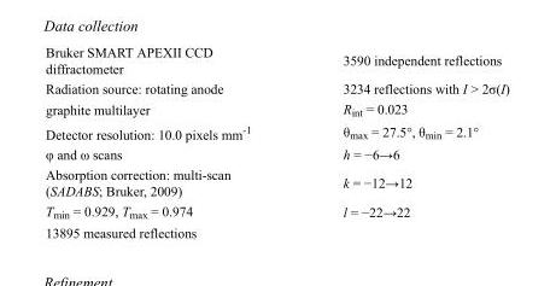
<table><tbody><tr><td>Bruker SMART APEXII CCD diffractometer</td><td>3590 independent reflections</td></tr><tr><td>Radiation source: rotating anode</td><td>3234 reflections with I &gt; 2σ(I)</td></tr><tr><td>graphite multilayer</td><td>R<sub>int</sub> = 0.023</td></tr><tr><td>Detector resolution: 10.0 pixels mm<sup>-1</sup></td><td>θ<sub>max</sub> = 27.5°, θ<sub>min</sub> = 2.1°</td></tr><tr><td>φ and ω scans</td><td>h = −6→6</td></tr><tr><td>Absorption correction: multi-scan (SADABS; Bruker, 2009)</td><td>k = −12→12</td></tr><tr><td>T<sub>min</sub> = 0.929, T<sub>max</sub> = 0.974</td><td>l = −22→22</td></tr><tr><td>13895 measured reflections</td><td></td></tr></tbody></table>